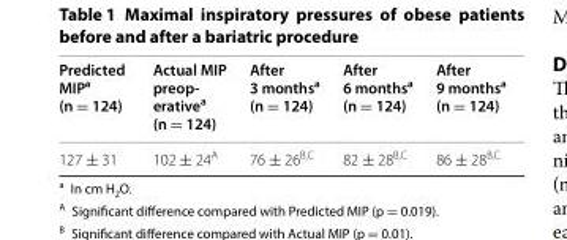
<table><thead><tr><td>Predicted MIP<sup>a</sup> (n = 124)</td><td>Actual MIP preop- erativea (n = 124)</td><td>After 3 months<sup>a</sup> (n = 124)</td><td>After 6 months<sup>a</sup> (n = 124)</td><td>After 9 months<sup>a</sup> (n = 124)</td></tr></thead><tbody><tr><td>127 ± 31</td><td>102 ± 24<sup>A</sup></td><td>76 ± 26<sup>B,C</sup></td><td>82 ± 28<sup>B,C</sup></td><td>86 ± 28<sup>B,C</sup></td></tr></tbody></table>